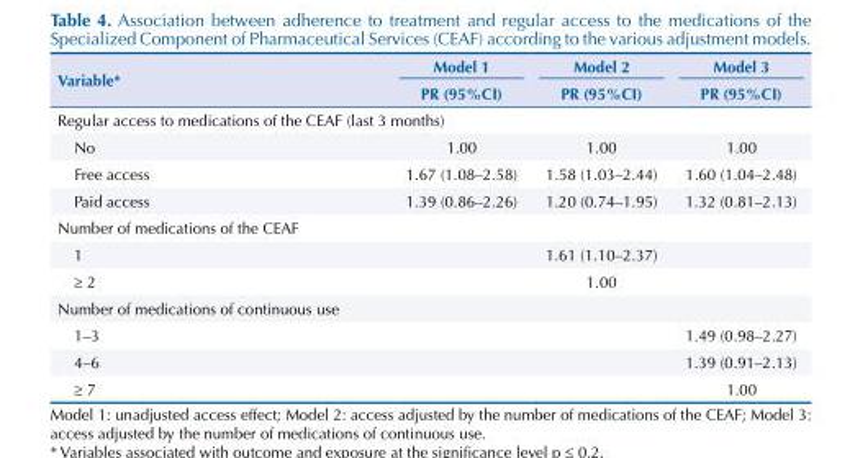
<table><thead><tr><td rowspan="2">Variable*</td><td rowspan="2">Model 1 PR (95%CI)</td><td rowspan="2">Model 2 PR (95%CI)</td><td rowspan="2">Model 3 PR (95%CI)</td></tr><tr></tr></thead><tbody><tr><td colspan="4">Regular access to medications of the CEAF (last 3 months)</td></tr><tr><td>No</td><td>1.00</td><td>1.00</td><td>1.00</td></tr><tr><td>Free access</td><td>1.67 (1.08–2.58)</td><td>1.58 (1.03–2.44)</td><td>1.60 (1.04–2.48)</td></tr><tr><td>Paid access</td><td>1.39 (0.86–2.26)</td><td>1.20 (0.74–1.95)</td><td>1.32 (0.81–2.13)</td></tr><tr><td colspan="4">Number of medications of the CEAF</td></tr><tr><td>1</td><td></td><td>1.61 (1.10–2.37)</td><td></td></tr><tr><td>≥ 2</td><td></td><td>1.00</td><td></td></tr><tr><td colspan="4">Number of medications of continuous use</td></tr><tr><td>1–3</td><td></td><td></td><td>1.49 (0.98–2.27)</td></tr><tr><td>4–6</td><td></td><td></td><td>1.39 (0.91–2.13)</td></tr><tr><td>≥ 7</td><td></td><td></td><td>1.00</td></tr></tbody></table>